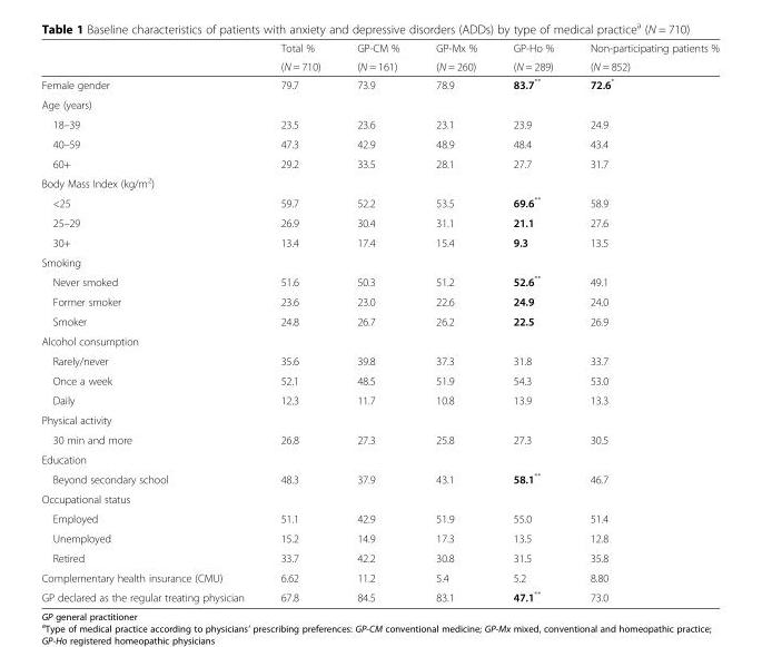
<table><thead><tr><td rowspan="2"></td><td rowspan="2">Total % (N = 710)</td><td rowspan="2">GP-CM % (N = 161)</td><td rowspan="2">GP-Mx % (N = 260)</td><td rowspan="2">GP-Ho % (N = 289)</td><td rowspan="2">Non-participating patients % (N = 852)</td></tr><tr></tr></thead><tbody><tr><td>Female gender</td><td>79.7</td><td>73.9</td><td>78.9</td><td>83.7**</td><td>72.6*</td></tr><tr><td colspan="6">Age (years)</td></tr><tr><td>18–39</td><td>23.5</td><td>23.6</td><td>23.1</td><td>23.9</td><td>24.9</td></tr><tr><td>40–59</td><td>47.3</td><td>42.9</td><td>48.9</td><td>48.4</td><td>43.4</td></tr><tr><td>60+</td><td>29.2</td><td>33.5</td><td>28.1</td><td>27.7</td><td>31.7</td></tr><tr><td colspan="6">Body Mass Index (kg/m<sup>2</sup>)</td></tr><tr><td>&lt;25</td><td>59.7</td><td>52.2</td><td>53.5</td><td>69.6**</td><td>58.9</td></tr><tr><td>25–29</td><td>26.9</td><td>30.4</td><td>31.1</td><td>21.1</td><td>27.6</td></tr><tr><td>30+</td><td>13.4</td><td>17.4</td><td>15.4</td><td>9.3</td><td>13.5</td></tr><tr><td colspan="6">Smoking</td></tr><tr><td>Never smoked</td><td>51.6</td><td>50.3</td><td>51.2</td><td>52.6**</td><td>49.1</td></tr><tr><td>Former smoker</td><td>23.6</td><td>23.0</td><td>22.6</td><td>24.9</td><td>24.0</td></tr><tr><td>Smoker</td><td>24.8</td><td>26.7</td><td>26.2</td><td>22.5</td><td>26.9</td></tr><tr><td colspan="6">Alcohol consumption</td></tr><tr><td>Rarely/never</td><td>35.6</td><td>39.8</td><td>37.3</td><td>31.8</td><td>33.7</td></tr><tr><td>Once a week</td><td>52.1</td><td>48.5</td><td>51.9</td><td>54.3</td><td>53.0</td></tr><tr><td>Daily</td><td>12.3</td><td>11.7</td><td>10.8</td><td>13.9</td><td>13.3</td></tr><tr><td colspan="6">Physical activity</td></tr><tr><td>30 min and more</td><td>26.8</td><td>27.3</td><td>25.8</td><td>27.3</td><td>30.5</td></tr><tr><td colspan="6">Education</td></tr><tr><td>Beyond secondary school</td><td>48.3</td><td>37.9</td><td>43.1</td><td>58.1**</td><td>46.7</td></tr><tr><td colspan="6">Occupational status</td></tr><tr><td>Employed</td><td>51.1</td><td>42.9</td><td>51.9</td><td>55.0</td><td>51.4</td></tr><tr><td>Unemployed</td><td>15.2</td><td>14.9</td><td>17.3</td><td>13.5</td><td>12.8</td></tr><tr><td>Retired</td><td>33.7</td><td>42.2</td><td>30.8</td><td>31.5</td><td>35.8</td></tr><tr><td>Complementary health insurance (CMU)</td><td>6.62</td><td>11.2</td><td>5.4</td><td>5.2</td><td>8.80</td></tr><tr><td>GP declared as the regular treating physician</td><td>67.8</td><td>84.5</td><td>83.1</td><td>47.1**</td><td>73.0</td></tr></tbody></table>